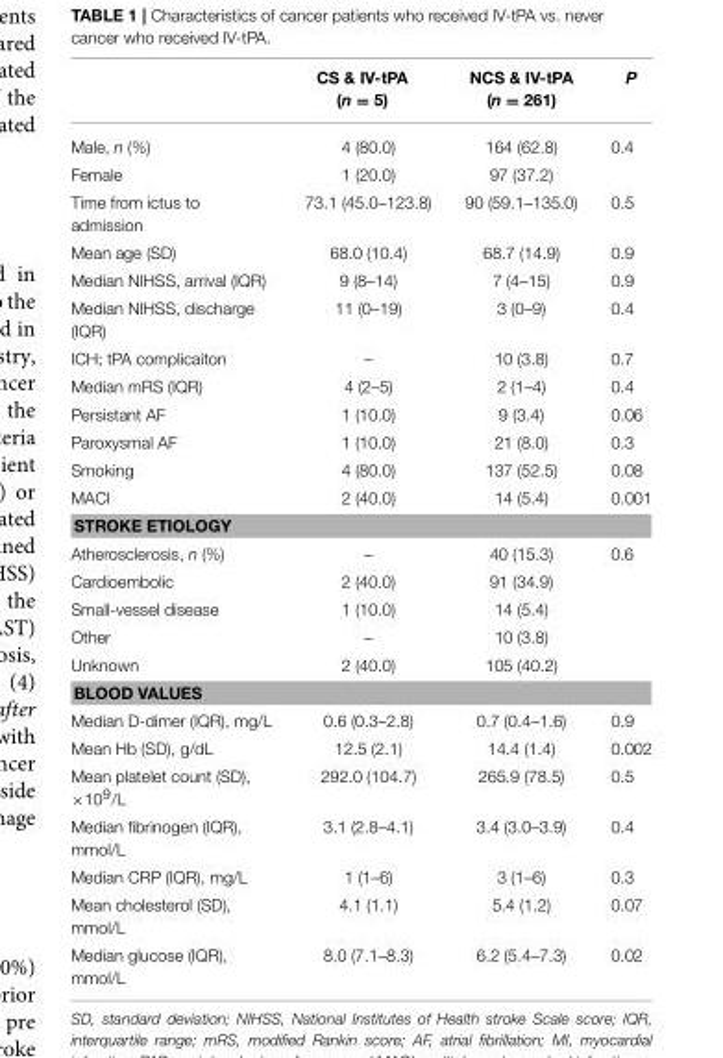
<table><thead><tr><td></td><td>CS &amp; IV-tPA (n = 5)</td><td>NCS &amp; IV-tPA (n = 261)</td><td>P</td></tr></thead><tbody><tr><td>Male, n (%)</td><td>4 (80.0)</td><td>164 (62.8)</td><td>0.4</td></tr><tr><td>Female</td><td>1 (20.0)</td><td>97 (37.2)</td><td></td></tr><tr><td>Time from ictus to admission</td><td>73.1 (45.0–123.8)</td><td>90 (59.1–135.0)</td><td>0.5</td></tr><tr><td>Mean age (SD)</td><td>68.0 (10.4)</td><td>68.7 (14.9)</td><td>0.9</td></tr><tr><td>Median NIHSS, arrival (IQR)</td><td>9 (8–14)</td><td>7 (4–15)</td><td>0.9</td></tr><tr><td>Median NIHSS, discharge (IQR)</td><td>11 (0–19)</td><td>3 (0–9)</td><td>0.4</td></tr><tr><td>ICH; tPA complicaiton</td><td>–</td><td>10 (3.8)</td><td>0.7</td></tr><tr><td>Median mRS (IQR)</td><td>4 (2–5)</td><td>2 (1–4)</td><td>0.4</td></tr><tr><td>Persistant AF</td><td>1 (10.0)</td><td>9 (3.4)</td><td>0.06</td></tr><tr><td>Paroxysmal AF</td><td>1 (10.0)</td><td>21 (8.0)</td><td>0.3</td></tr><tr><td>Smoking</td><td>4 (80.0)</td><td>137 (52.5)</td><td>0.08</td></tr><tr><td>MACI</td><td>2 (40.0)</td><td>14 (5.4)</td><td>0.001</td></tr><tr><td colspan="4">STROKE ETIOLOGY</td></tr><tr><td>Atherosclerosis, n (%)</td><td>–</td><td>40 (15.3)</td><td>0.6</td></tr><tr><td>Cardioembolic</td><td>2 (40.0)</td><td>91 (34.9)</td><td></td></tr><tr><td>Small-vessel disease</td><td>1 (10.0)</td><td>14 (5.4)</td><td></td></tr><tr><td>Other</td><td>–</td><td>10 (3.8)</td><td></td></tr><tr><td>Unknown</td><td>2 (40.0)</td><td>105 (40.2)</td><td></td></tr><tr><td colspan="4">BLOOD VALUES</td></tr><tr><td>Median D-dimer (IQR), mg/L</td><td>0.6 (0.3–2.8)</td><td>0.7 (0.4–1.6)</td><td>0.9</td></tr><tr><td>Mean Hb (SD), g/dL</td><td>12.5 (2.1)</td><td>14.4 (1.4)</td><td>0.002</td></tr><tr><td>Mean platelet count (SD), ×10<sup>9</sup>/L</td><td>292.0 (104.7)</td><td>265.9 (78.5)</td><td>0.5</td></tr><tr><td>Median fibrinogen (IQR), mmol/L</td><td>3.1 (2.8–4.1)</td><td>3.4 (3.0–3.9)</td><td>0.4</td></tr><tr><td>Median CRP (IQR), mg/L</td><td>1 (1–6)</td><td>3 (1–6)</td><td>0.3</td></tr><tr><td>Mean cholesterol (SD), mmol/L</td><td>4.1 (1.1)</td><td>5.4 (1.2)</td><td>0.07</td></tr><tr><td>Median glucose (IQR), mmol/L</td><td>8.0 (7.1–8.3)</td><td>6.2 (5.4–7.3)</td><td>0.02</td></tr></tbody></table>